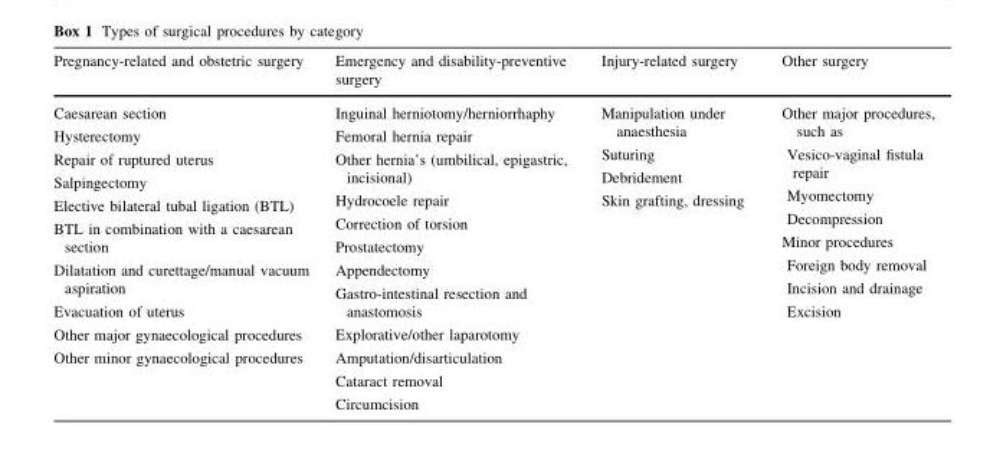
<table><thead><tr><td>Pregnancy-related and obstetric surgery</td><td>Emergency and disability-preventive surgery</td><td>Injury-related surgery</td><td>Other surgery</td></tr></thead><tbody><tr><td>Caesarean section Hysterectomy Repair of ruptured uterus Salpingectomy Elective bilateral tubal ligation (BTL) BTL in combination with a caesarean section Dilatation and curettage/manual vacuum aspiration Evacuation of uterus Other major gynaecological procedures Other minor gynaecological procedures</td><td>Inguinal herniotomy/herniorrhaphy Femoral hernia repair Other hernia’s (umbilical, epigastric, incisional) Hydrocoele repair Correction of torsion Prostatectomy Appendectomy Gastro-intestinal resection and anastomosis Explorative/other laparotomy Amputation/disarticulation Cataract removal Circumcision</td><td>Manipulation under anaesthesia Suturing Debridement Skin grafting, dressing</td><td>Other major procedures, such as Vesico-vaginal fistula repair Myomectomy Decompression Minor procedures Foreign body removal Incision and drainage Excision</td></tr></tbody></table>